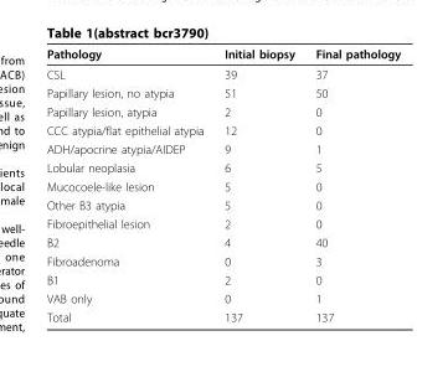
<table><thead><tr><td>Pathology</td><td>Initial biopsy</td><td>Final pathology</td></tr></thead><tbody><tr><td>CSL</td><td>39</td><td>37</td></tr><tr><td>Papillary lesion, no atypia</td><td>51</td><td>50</td></tr><tr><td>Papillary lesion, atypia</td><td>2</td><td>0</td></tr><tr><td>CCC atypia/flat epithelial atypia</td><td>12</td><td>0</td></tr><tr><td>ADH/apocrine atypia/AIDEP</td><td>9</td><td>1</td></tr><tr><td>Lobular neoplasia</td><td>6</td><td>5</td></tr><tr><td>Mucocoele-like lesion</td><td>5</td><td>0</td></tr><tr><td>Other B3 atypia</td><td>5</td><td>0</td></tr><tr><td>Fibroepithelial lesion</td><td>2</td><td>0</td></tr><tr><td>B2</td><td>4</td><td>40</td></tr><tr><td>Fibroadenoma</td><td>0</td><td>3</td></tr><tr><td>B1</td><td>2</td><td>0</td></tr><tr><td>VAB only</td><td>0</td><td>1</td></tr><tr><td>Total</td><td>137</td><td>137</td></tr></tbody></table>